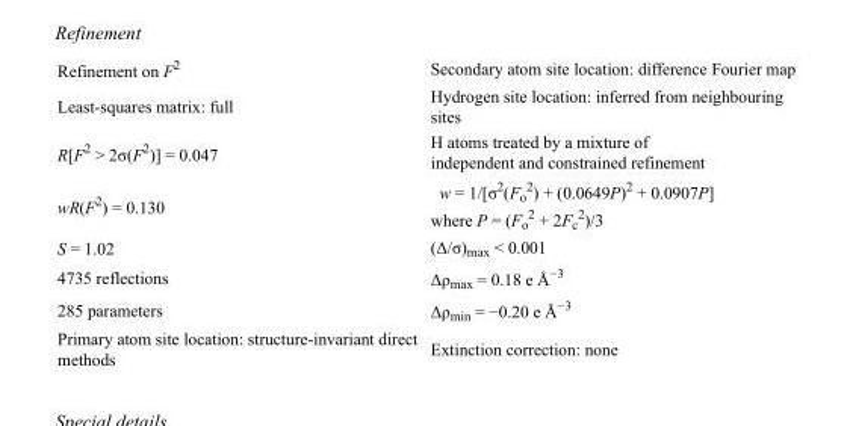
<table><tbody><tr><td>Refinement on F<sup>2</sup></td><td>Secondary atom site location: difference Fourier map</td></tr><tr><td>Least-squares matrix: full</td><td>Hydrogen site location: inferred from neighbouring sites</td></tr><tr><td>R[F<sup>2</sup> &gt; 2σ(F<sup>2</sup>)] = 0.047</td><td>H atoms treated by a mixture of independent and constrained refinement</td></tr><tr><td>wR(F<sup>2</sup>) = 0.130</td><td>w = 1/[σ<sup>2</sup>(F<sub>o</sub> <sup>2</sup>) + (0.0649P)<sup>2</sup> + 0.0907P] where P = (F<sub>o</sub> <sup>2</sup> + 2F<sub>c</sub> <sup>2</sup>)/3</td></tr><tr><td>S = 1.02</td><td>(Δ/σ)<sub>max</sub> &lt; 0.001</td></tr><tr><td>4735 reflections</td><td>Δρ<sub>max</sub> = 0.18 e Å<sup>−3</sup></td></tr><tr><td>285 parameters</td><td>Δρ<sub>min</sub> = −0.20 e Å<sup>−3</sup></td></tr><tr><td>Primary atom site location: structure-invariant direct methods</td><td>Extinction correction: none</td></tr></tbody></table>